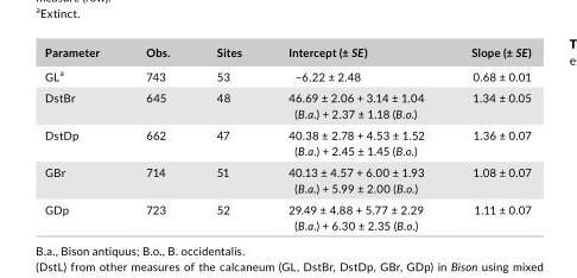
<table><thead><tr><td>Parameter</td><td>Obs.</td><td>Sites</td><td>Intercept (± SE)</td><td>Slope (± SE)</td></tr></thead><tbody><tr><td>GL<sup>a</sup></td><td>743</td><td>53</td><td>−6.22 ± 2.48</td><td>0.68 ± 0.01</td></tr><tr><td>DstBr</td><td>645</td><td>48</td><td>46.69 ± 2.06 + 3.14 ± 1.04 (B.a.) + 2.37 ± 1.18 (B.o.)</td><td>1.34 ± 0.05</td></tr><tr><td>DstDp</td><td>662</td><td>47</td><td>40.38 ± 2.78 + 4.53 ± 1.52 (B.a.) + 2.45 ± 1.45 (B.o.)</td><td>1.36 ± 0.07</td></tr><tr><td>GBr</td><td>714</td><td>51</td><td>40.13 ± 4.57 + 6.00 ± 1.93 (B.a.) + 5.99 ± 2.00 (B.o.)</td><td>1.08 ± 0.07</td></tr><tr><td>GDp</td><td>723</td><td>52</td><td>29.49 ± 4.88 + 5.77 ± 2.29 (B.a.) + 6.30 ± 2.35 (B.o.)</td><td>1.11 ± 0.07</td></tr></tbody></table>